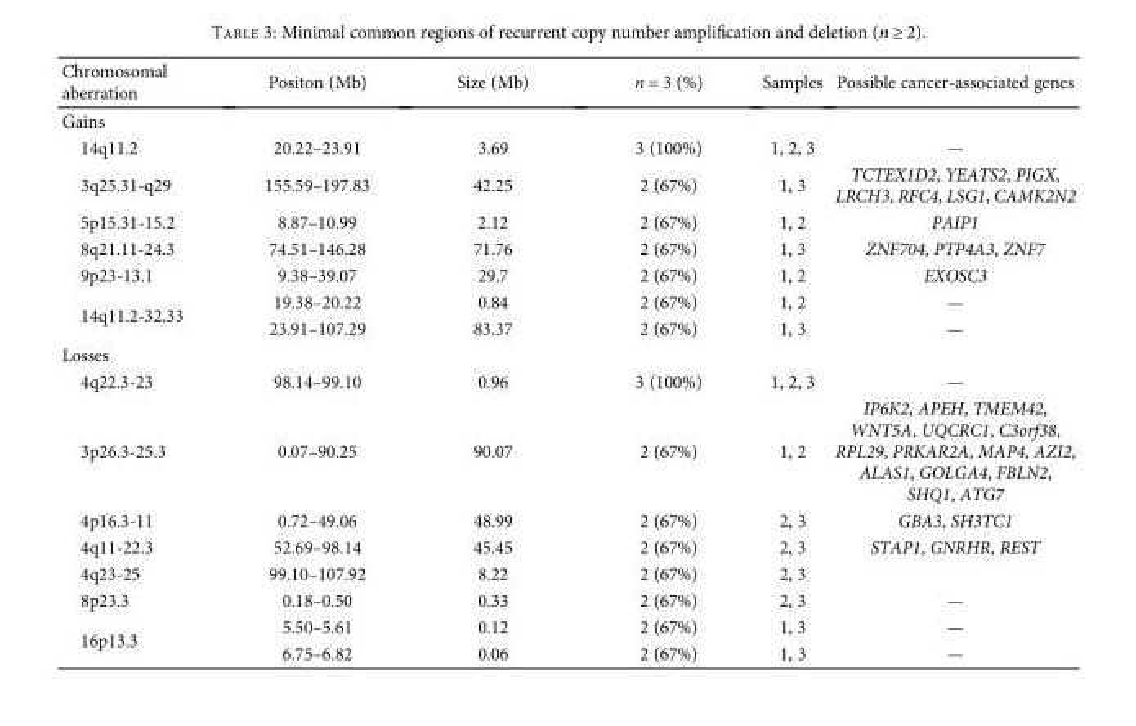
<table><thead><tr><td>Chromosomal aberration</td><td>Positon (Mb)</td><td>Size (Mb)</td><td>n = 3 (%)</td><td>Samples</td><td>Possible cancer-associated genes</td></tr></thead><tbody><tr><td colspan="6">Gains</td></tr><tr><td>14q11.2</td><td>20.22–23.91</td><td>3.69</td><td>3 (100%)</td><td>1, 2, 3</td><td>—</td></tr><tr><td>3q25.31-q29</td><td>155.59–197.83</td><td>42.25</td><td>2 (67%)</td><td>1, 3</td><td>TCTEX1D2, YEATS2, PIGX, LRCH3, RFC4, LSG1, CAMK2N2</td></tr><tr><td>5p15.31-15.2</td><td>8.87–10.99</td><td>2.12</td><td>2 (67%)</td><td>1, 2</td><td>PAIP1</td></tr><tr><td>8q21.11-24.3</td><td>74.51–146.28</td><td>71.76</td><td>2 (67%)</td><td>1, 3</td><td>ZNF704, PTP4A3, ZNF7</td></tr><tr><td>9p23-13.1</td><td>9.38–39.07</td><td>29.7</td><td>2 (67%)</td><td>1, 2</td><td>EXOSC3</td></tr><tr><td rowspan="2">14q11.2-32.33</td><td>19.38–20.22</td><td>0.84</td><td>2 (67%)</td><td>1, 2</td><td>—</td></tr><tr><td>23.91–107.29</td><td>83.37</td><td>2 (67%)</td><td>1, 3</td><td>—</td></tr><tr><td colspan="6">Losses</td></tr><tr><td>4q22.3-23</td><td>98.14–99.10</td><td>0.96</td><td>3 (100%)</td><td>1, 2, 3</td><td>—</td></tr><tr><td>3p26.3-25.3</td><td>0.07–90.25</td><td>90.07</td><td>2 (67%)</td><td>1, 2</td><td>IP6K2, APEH, TMEM42, WNT5A, UQCRC1, C3orf38, RPL29, PRKAR2A, MAP4, AZI2, ALAS1, GOLGA4, FBLN2, SHQ1, ATG7</td></tr><tr><td>4p16.3-11</td><td>0.72–49.06</td><td>48.99</td><td>2 (67%)</td><td>2, 3</td><td>GBA3, SH3TC1</td></tr><tr><td>4q11-22.3</td><td>52.69–98.14</td><td>45.45</td><td>2 (67%)</td><td>2, 3</td><td>STAP1, GNRHR, REST</td></tr><tr><td>4q23-25</td><td>99.10–107.92</td><td>8.22</td><td>2 (67%)</td><td>2, 3</td><td></td></tr><tr><td>8p23.3</td><td>0.18–0.50</td><td>0.33</td><td>2 (67%)</td><td>2, 3</td><td>—</td></tr><tr><td rowspan="2">16p13.3</td><td>5.50–5.61</td><td>0.12</td><td>2 (67%)</td><td>1, 3</td><td>—</td></tr><tr><td>6.75–6.82</td><td>0.06</td><td>2 (67%)</td><td>1, 3</td><td>—</td></tr></tbody></table>